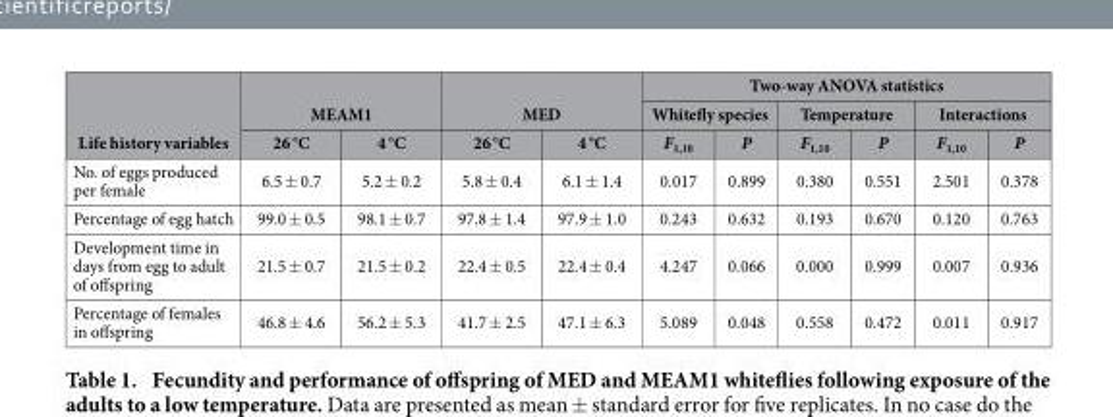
<table><thead><tr><td rowspan="3">Life history variables</td><td></td><td></td><td></td><td></td><td colspan="6">Two-way ANOVA statistics</td></tr><tr><td colspan="2">MEAM1</td><td colspan="2">MED</td><td colspan="2">Whitefly species</td><td colspan="2">Temperature</td><td colspan="2">Interactions</td></tr><tr><td>26 °C</td><td>4 °C</td><td>26 °C</td><td>4 °C</td><td>F<sub>1,10</sub></td><td>P</td><td>F<sub>1,10</sub></td><td>P</td><td>F<sub>1,10</sub></td><td>P</td></tr></thead><tbody><tr><td>No. of eggs produced per female</td><td>6.5 ± 0.7</td><td>5.2 ± 0.2</td><td>5.8 ± 0.4</td><td>6.1 ± 1.4</td><td>0.017</td><td>0.899</td><td>0.380</td><td>0.551</td><td>2.501</td><td>0.378</td></tr><tr><td>Percentage of egg hatch</td><td>99.0 ± 0.5</td><td>98.1 ± 0.7</td><td>97.8 ± 1.4</td><td>97.9 ± 1.0</td><td>0.243</td><td>0.632</td><td>0.193</td><td>0.670</td><td>0.120</td><td>0.763</td></tr><tr><td>Development time in days from egg to adult of offspring</td><td>21.5 ± 0.7</td><td>21.5 ± 0.2</td><td>22.4 ± 0.5</td><td>22.4 ± 0.4</td><td>4.247</td><td>0.066</td><td>0.000</td><td>0.999</td><td>0.007</td><td>0.936</td></tr><tr><td>Percentage of females in offspring</td><td>46.8 ± 4.6</td><td>56.2 ± 5.3</td><td>41.7 ± 2.5</td><td>47.1 ± 6.3</td><td>5.089</td><td>0.048</td><td>0.558</td><td>0.472</td><td>0.011</td><td>0.917</td></tr></tbody></table>